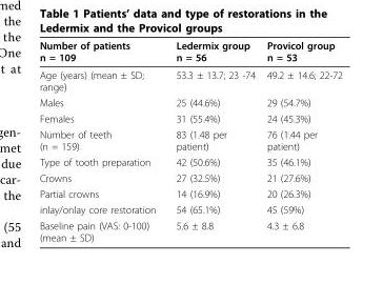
<table><thead><tr><td>Number of patients n = 109</td><td>Ledermix group n = 56</td><td>Provicol group n = 53</td></tr></thead><tbody><tr><td>Age (years) (mean ± SD; range)</td><td>53.3 ± 13.7; 23 -74</td><td>49.2 ± 14.6; 22-72</td></tr><tr><td>Males</td><td>25 (44.6%)</td><td>29 (54.7%)</td></tr><tr><td>Females</td><td>31 (55.4%)</td><td>24 (45.3%)</td></tr><tr><td>Number of teeth (n = 159)</td><td>83 (1.48 per patient)</td><td>76 (1.44 per patient)</td></tr><tr><td>Type of tooth preparation</td><td>42 (50.6%)</td><td>35 (46.1%)</td></tr><tr><td>Crowns</td><td>27 (32.5%)</td><td>21 (27.6%)</td></tr><tr><td>Partial crowns</td><td>14 (16.9%)</td><td>20 (26.3%)</td></tr><tr><td>inlay/onlay core restoration</td><td>54 (65.1%)</td><td>45 (59%)</td></tr><tr><td>Baseline pain (VAS: 0-100) (mean ± SD)</td><td>5.6 ± 8.8</td><td>4.3 ± 6.8</td></tr></tbody></table>